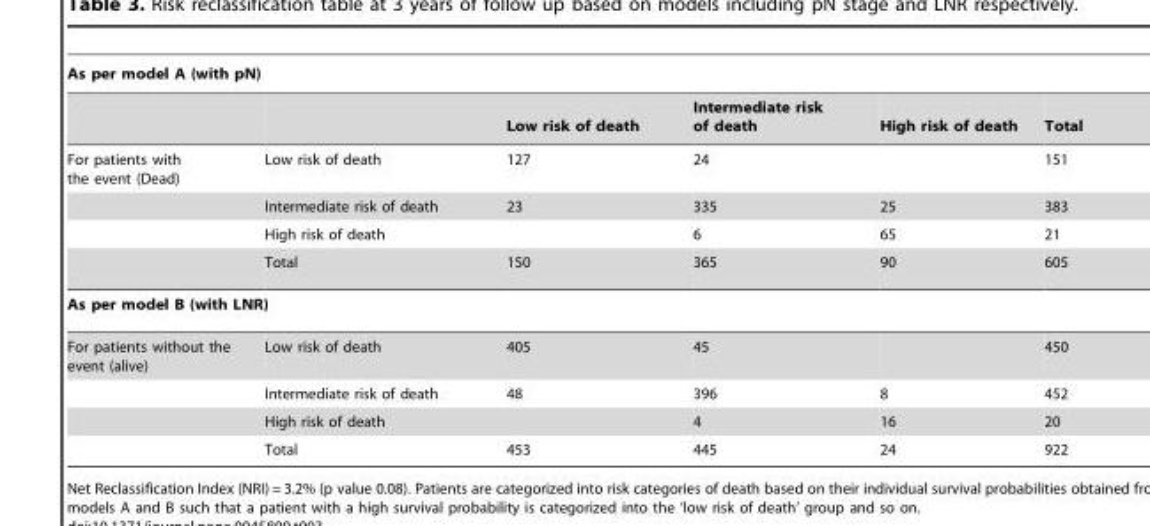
<table><thead><tr><td colspan="6">As per model A (with pN)</td></tr><tr><td></td><td></td><td>Low risk of death</td><td>Intermediate risk of death</td><td>High risk of death</td><td>Total</td></tr></thead><tbody><tr><td rowspan="4">For patients with the event (Dead)</td><td>Low risk of death</td><td>127</td><td>24</td><td></td><td>151</td></tr><tr><td>Intermediate risk of death</td><td>23</td><td>335</td><td>25</td><td>383</td></tr><tr><td>High risk of death</td><td></td><td>6</td><td>65</td><td>21</td></tr><tr><td>Total</td><td>150</td><td>365</td><td>90</td><td>605</td></tr><tr><td colspan="6">As per model B (with LNR)</td></tr><tr><td rowspan="4">For patients without the event (alive)</td><td>Low risk of death</td><td>405</td><td>45</td><td></td><td>450</td></tr><tr><td>Intermediate risk of death</td><td>48</td><td>396</td><td>8</td><td>452</td></tr><tr><td>High risk of death</td><td></td><td>4</td><td>16</td><td>20</td></tr><tr><td>Total</td><td>453</td><td>445</td><td>24</td><td>922</td></tr></tbody></table>